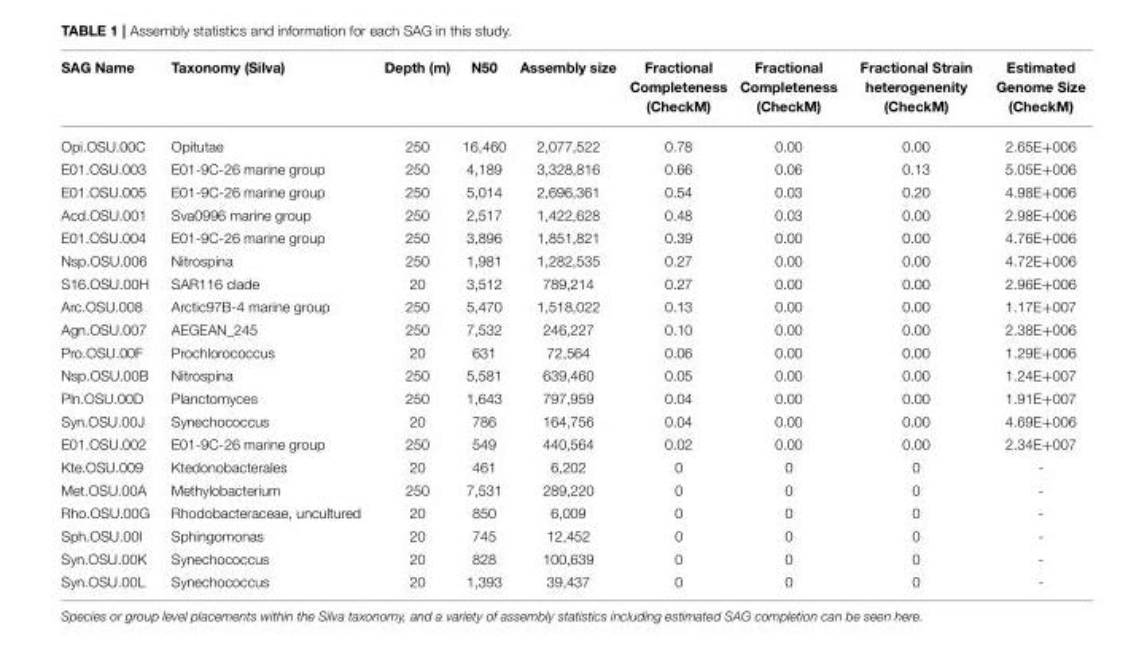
<table><thead><tr><td>SAG Name</td><td>Taxonomy (Silva)</td><td>Depth (m)</td><td>N50</td><td>Assembly size</td><td>Fractional Completeness (CheckM)</td><td>Fractional Completeness (CheckM)</td><td>Fractional Strain heterogenenity (CheckM)</td><td>Estimated Genome Size (CheckM)</td></tr></thead><tbody><tr><td>Opi.OSU.00C</td><td>Opitutae</td><td>250</td><td>16,460</td><td>2,077,522</td><td>0.78</td><td>0.00</td><td>0.00</td><td>2.65E+006</td></tr><tr><td>E01.OSU.003</td><td>E01-9C-26 marine group</td><td>250</td><td>4,189</td><td>3,328,816</td><td>0.66</td><td>0.06</td><td>0.13</td><td>5.05E+006</td></tr><tr><td>E01.OSU.005</td><td>E01-9C-26 marine group</td><td>250</td><td>5,014</td><td>2,696,361</td><td>0.54</td><td>0.03</td><td>0.20</td><td>4.98E+006</td></tr><tr><td>Acd.OSU.001</td><td>Sva0996 marine group</td><td>250</td><td>2,517</td><td>1,422,628</td><td>0.48</td><td>0.03</td><td>0.00</td><td>2.98E+006</td></tr><tr><td>E01.OSU.004</td><td>E01-9C-26 marine group</td><td>250</td><td>3,896</td><td>1,851,821</td><td>0.39</td><td>0.00</td><td>0.00</td><td>4.76E+006</td></tr><tr><td>Nsp.OSU.006</td><td>Nitrospina</td><td>250</td><td>1,981</td><td>1,282,535</td><td>0.27</td><td>0.00</td><td>0.00</td><td>4.72E+006</td></tr><tr><td>S16.OSU.00H</td><td>SAR116 clade</td><td>20</td><td>3,512</td><td>789,214</td><td>0.27</td><td>0.00</td><td>0.00</td><td>2.96E+006</td></tr><tr><td>Arc.OSU.008</td><td>Arctic97B-4 marine group</td><td>250</td><td>5,470</td><td>1,518,022</td><td>0.13</td><td>0.00</td><td>0.00</td><td>1.17E+007</td></tr><tr><td>Agn.OSU.007</td><td>AEGEAN_245</td><td>250</td><td>7,532</td><td>246,227</td><td>0.10</td><td>0.00</td><td>0.00</td><td>2.38E+006</td></tr><tr><td>Pro.OSU.00F</td><td>Prochlorococcus</td><td>20</td><td>631</td><td>72,564</td><td>0.06</td><td>0.00</td><td>0.00</td><td>1.29E+006</td></tr><tr><td>Nsp.OSU.00B</td><td>Nitrospina</td><td>250</td><td>5,581</td><td>639,460</td><td>0.05</td><td>0.00</td><td>0.00</td><td>1.24E+007</td></tr><tr><td>Pln.OSU.00D</td><td>Planctomyces</td><td>250</td><td>1,643</td><td>797,959</td><td>0.04</td><td>0.00</td><td>0.00</td><td>1.91E+007</td></tr><tr><td>Syn.OSU.00J</td><td>Synechococcus</td><td>20</td><td>786</td><td>164,756</td><td>0.04</td><td>0.00</td><td>0.00</td><td>4.69E+006</td></tr><tr><td>E01.OSU.002</td><td>E01-9C-26 marine group</td><td>250</td><td>549</td><td>440,564</td><td>0.02</td><td>0.00</td><td>0.00</td><td>2.34E+007</td></tr><tr><td>Kte.OSU.009</td><td>Ktedonobacterales</td><td>20</td><td>461</td><td>6,202</td><td>0</td><td>0</td><td>0</td><td>-</td></tr><tr><td>Met.OSU.00A</td><td>Methylobacterium</td><td>250</td><td>7,531</td><td>289,220</td><td>0</td><td>0</td><td>0</td><td>-</td></tr><tr><td>Rho.OSU.00G</td><td>Rhodobacteraceae, uncultured</td><td>20</td><td>850</td><td>6,009</td><td>0</td><td>0</td><td>0</td><td>-</td></tr><tr><td>Sph.OSU.00I</td><td>Sphingomonas</td><td>20</td><td>745</td><td>12,452</td><td>0</td><td>0</td><td>0</td><td>-</td></tr><tr><td>Syn.OSU.00K</td><td>Synechococcus</td><td>20</td><td>828</td><td>100,639</td><td>0</td><td>0</td><td>0</td><td>-</td></tr><tr><td>Syn.OSU.00L</td><td>Synechococcus</td><td>20</td><td>1,393</td><td>39,437</td><td>0</td><td>0</td><td>0</td><td>-</td></tr></tbody></table>